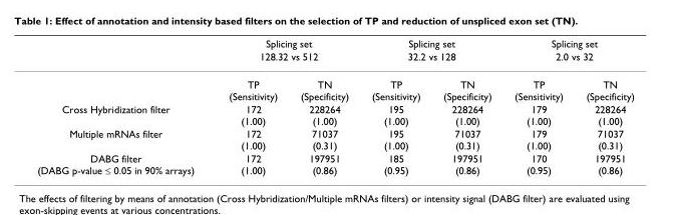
<table><thead><tr><td rowspan="3"></td><td rowspan="2" colspan="2">Splicing set 128.32 vs 512</td><td rowspan="2" colspan="2">Splicing set 32.2 vs 128</td><td rowspan="2" colspan="2">Splicing set 2.0 vs 32</td></tr><tr></tr><tr><td>TP (Sensitivity)</td><td>TN (Specificity)</td><td>TP (Sensitivity)</td><td>TN (Specificity)</td><td>TP (Sensitivity)</td><td>TN (Specificity)</td></tr></thead><tbody><tr><td>Cross Hybridization filter</td><td>172 (1.00)</td><td>228264 (1.00)</td><td>195 (1.00)</td><td>228264 (1.00)</td><td>179 (1.00)</td><td>228264 (1.00)</td></tr><tr><td>Multiple mRNAs filter</td><td>172 (1.00)</td><td>71037 (0.31)</td><td>195 (1.00)</td><td>71037 (0.31)</td><td>179 (1.00)</td><td>71037 (0.31)</td></tr><tr><td>DABG filter (DABG p-value ≤ 0.05 in 90% arrays)</td><td>172 (1.00)</td><td>197951 (0.86)</td><td>185 (0.95)</td><td>197951 (0.86)</td><td>170 (0.95)</td><td>197951 (0.86)</td></tr></tbody></table>